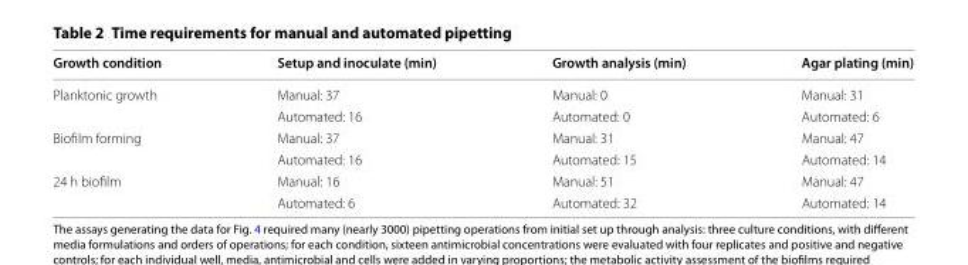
<table><thead><tr><td>Growth condition</td><td>Setup and inoculate (min)</td><td>Growth analysis (min)</td><td>Agar plating (min)</td></tr></thead><tbody><tr><td rowspan="2">Planktonic growth</td><td>Manual: 37</td><td>Manual: 0</td><td>Manual: 31</td></tr><tr><td>Automated: 16</td><td>Automated: 0</td><td>Automated: 6</td></tr><tr><td rowspan="2">Biofilm forming</td><td>Manual: 37</td><td>Manual: 31</td><td>Manual: 47</td></tr><tr><td>Automated: 16</td><td>Automated: 15</td><td>Automated: 14</td></tr><tr><td rowspan="2">24 h biofilm</td><td>Manual: 16</td><td>Manual: 51</td><td>Manual: 47</td></tr><tr><td>Automated: 6</td><td>Automated: 32</td><td>Automated: 14</td></tr></tbody></table>